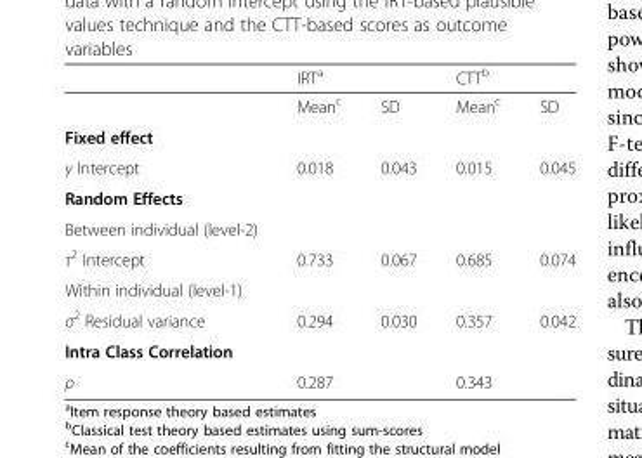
<table><thead><tr><td rowspan="2"></td><td colspan="2">IRT<sup>a</sup></td><td colspan="2">CTT<sup>b</sup></td></tr><tr><td>Mean<sup>c</sup></td><td>SD</td><td>Mean<sup>c</sup></td><td>SD</td></tr></thead><tbody><tr><td colspan="5">Fixed effect</td></tr><tr><td>γ Intercept</td><td>0.018</td><td>0.043</td><td>0.015</td><td>0.045</td></tr><tr><td colspan="5">Random Effects</td></tr><tr><td colspan="5">Between individual (level-2)</td></tr><tr><td>τ<sup>2</sup> Intercept</td><td>0.733</td><td>0.067</td><td>0.685</td><td>0.074</td></tr><tr><td colspan="5">Within individual (level-1)</td></tr><tr><td>σ<sup>2</sup> Residual variance</td><td>0.294</td><td>0.030</td><td>0.357</td><td>0.042</td></tr><tr><td colspan="5">Intra Class Correlation</td></tr><tr><td>ρ</td><td>0.287</td><td></td><td>0.343</td><td></td></tr></tbody></table>